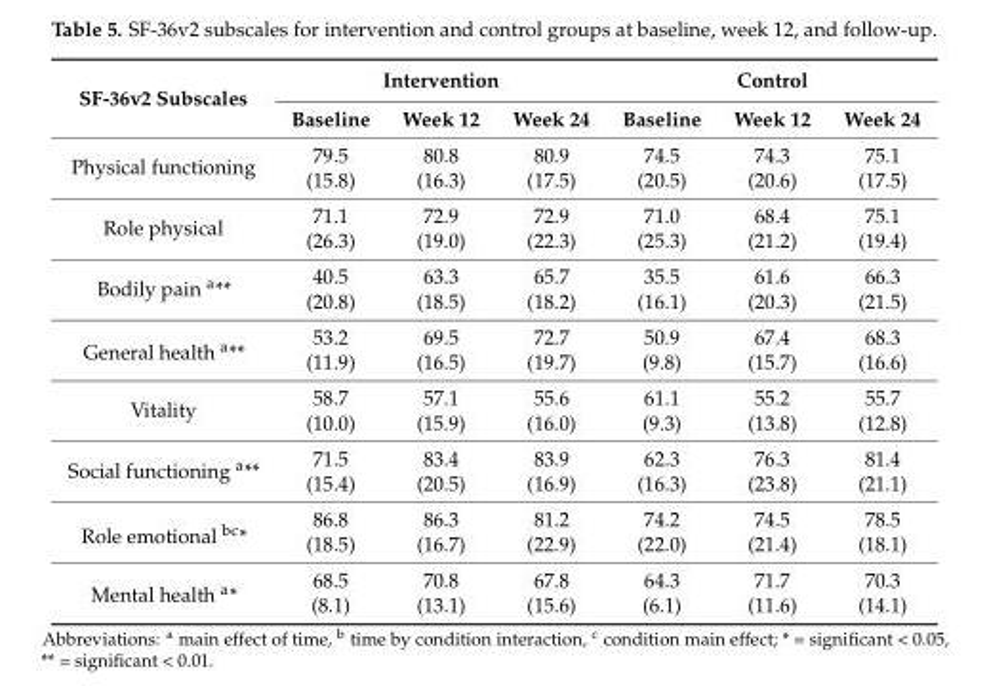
<table><thead><tr><td rowspan="2">SF-36v2 Subscales</td><td colspan="3">Intervention</td><td colspan="3">Control</td></tr><tr><td>Baseline</td><td>Week 12</td><td>Week 24</td><td>Baseline</td><td>Week 12</td><td>Week 24</td></tr></thead><tbody><tr><td rowspan="2">Physical functioning</td><td>79.5</td><td>80.8</td><td>80.9</td><td>74.5</td><td>74.3</td><td>75.1</td></tr><tr><td>(15.8)</td><td>(16.3)</td><td>(17.5)</td><td>(20.5)</td><td>(20.6)</td><td>(17.5)</td></tr><tr><td rowspan="2">Role physical</td><td>71.1</td><td>72.9</td><td>72.9</td><td>71.0</td><td>68.4</td><td>75.1</td></tr><tr><td>(26.3)</td><td>(19.0)</td><td>(22.3)</td><td>(25.3)</td><td>(21.2)</td><td>(19.4)</td></tr><tr><td rowspan="2">Bodily pain <sup>a</sup>**</td><td>40.5</td><td>63.3</td><td>65.7</td><td>35.5</td><td>61.6</td><td>66.3</td></tr><tr><td>(20.8)</td><td>(18.5)</td><td>(18.2)</td><td>(16.1)</td><td>(20.3)</td><td>(21.5)</td></tr><tr><td rowspan="2">General health <sup>a</sup>**</td><td>53.2</td><td>69.5</td><td>72.7</td><td>50.9</td><td>67.4</td><td>68.3</td></tr><tr><td>(11.9)</td><td>(16.5)</td><td>(19.7)</td><td>(9.8)</td><td>(15.7)</td><td>(16.6)</td></tr><tr><td rowspan="2">Vitality</td><td>58.7</td><td>57.1</td><td>55.6</td><td>61.1</td><td>55.2</td><td>55.7</td></tr><tr><td>(10.0)</td><td>(15.9)</td><td>(16.0)</td><td>(9.3)</td><td>(13.8)</td><td>(12.8)</td></tr><tr><td rowspan="2">Social functioning <sup>a</sup>**</td><td>71.5</td><td>83.4</td><td>83.9</td><td>62.3</td><td>76.3</td><td>81.4</td></tr><tr><td>(15.4)</td><td>(20.5)</td><td>(16.9)</td><td>(16.3)</td><td>(23.8)</td><td>(21.1)</td></tr><tr><td rowspan="2">Role emotional <sup>bc</sup>*</td><td>86.8</td><td>86.3</td><td>81.2</td><td>74.2</td><td>74.5</td><td>78.5</td></tr><tr><td>(18.5)</td><td>(16.7)</td><td>(22.9)</td><td>(22.0)</td><td>(21.4)</td><td>(18.1)</td></tr><tr><td rowspan="2">Mental health <sup>a</sup>*</td><td>68.5</td><td>70.8</td><td>67.8</td><td>64.3</td><td>71.7</td><td>70.3</td></tr><tr><td>(8.1)</td><td>(13.1)</td><td>(15.6)</td><td>(6.1)</td><td>(11.6)</td><td>(14.1)</td></tr></tbody></table>